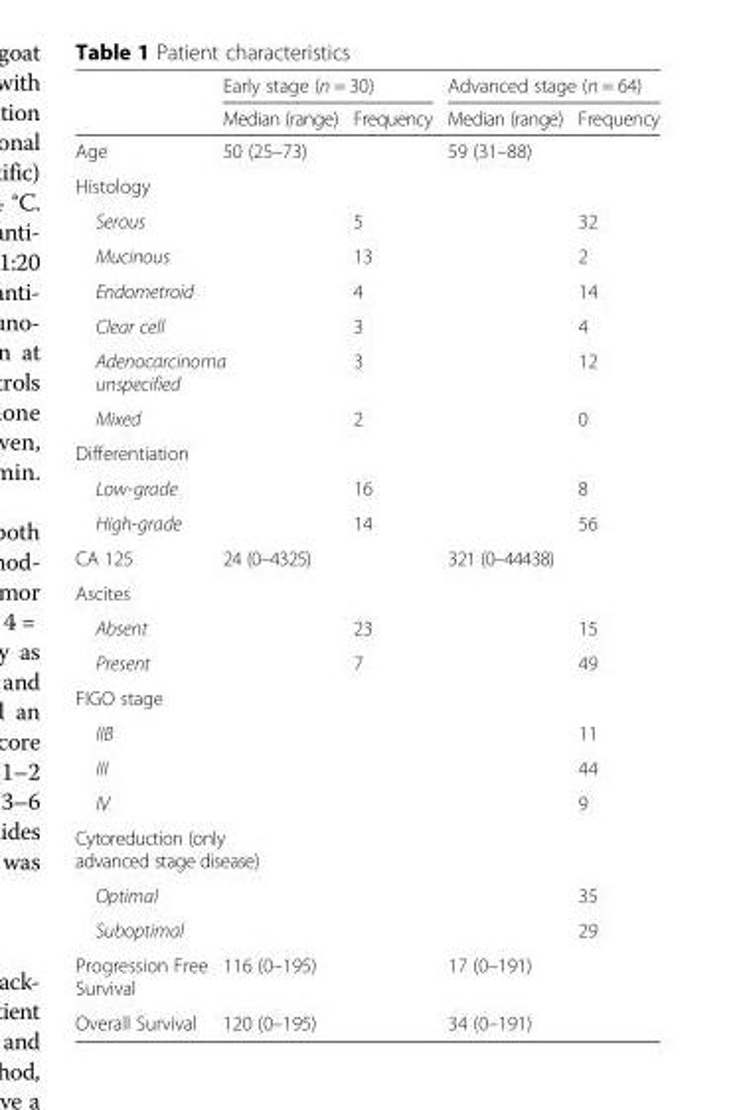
<table><thead><tr><td rowspan="2"></td><td colspan="2">Early stage (n = 30)</td><td colspan="2">Advanced stage (n = 64)</td></tr><tr><td>Median (range)</td><td>Frequency</td><td>Median (range)</td><td>Frequency</td></tr></thead><tbody><tr><td>Age</td><td>50 (25–73)</td><td></td><td>59 (31–88)</td><td></td></tr><tr><td colspan="5">Histology</td></tr><tr><td>Serous</td><td></td><td>5</td><td></td><td>32</td></tr><tr><td>Mucinous</td><td></td><td>13</td><td></td><td>2</td></tr><tr><td>Endometroid</td><td></td><td>4</td><td></td><td>14</td></tr><tr><td>Clear cell</td><td></td><td>3</td><td></td><td>4</td></tr><tr><td colspan="2">Adenocarcinoma unspecified</td><td>3</td><td></td><td>12</td></tr><tr><td>Mixed</td><td></td><td>2</td><td></td><td>0</td></tr><tr><td colspan="5">Differentiation</td></tr><tr><td>Low-grade</td><td></td><td>16</td><td></td><td>8</td></tr><tr><td>High-grade</td><td></td><td>14</td><td></td><td>56</td></tr><tr><td>CA 125</td><td>24 (0–4325)</td><td></td><td>321 (0–44438)</td><td></td></tr><tr><td colspan="5">Ascites</td></tr><tr><td>Absent</td><td></td><td>23</td><td></td><td>15</td></tr><tr><td>Present</td><td></td><td>7</td><td></td><td>49</td></tr><tr><td colspan="5">FIGO stage</td></tr><tr><td>IIB</td><td></td><td></td><td></td><td>11</td></tr><tr><td>III</td><td></td><td></td><td></td><td>44</td></tr><tr><td>IV</td><td></td><td></td><td></td><td>9</td></tr><tr><td colspan="5">Cytoreduction (only advanced stage disease)</td></tr><tr><td>Optimal</td><td></td><td></td><td></td><td>35</td></tr><tr><td>Suboptimal</td><td></td><td></td><td></td><td>29</td></tr><tr><td>Progression Free Survival</td><td>116 (0–195)</td><td></td><td>17 (0–191)</td><td></td></tr><tr><td>Overall Survival</td><td>120 (0–195)</td><td></td><td>34 (0–191)</td><td></td></tr></tbody></table>